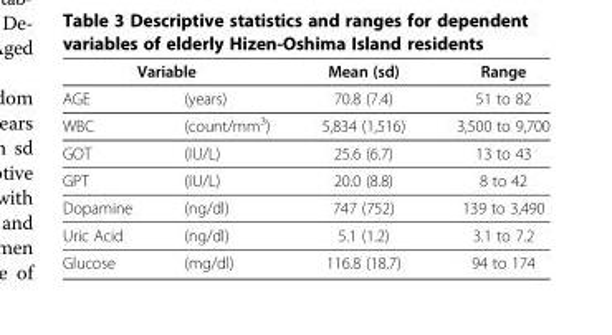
<table><thead><tr><td colspan="2">Variable</td><td rowspan="2">Mean (sd) 70.8 (7.4)</td><td rowspan="2">Range 51 to 82</td></tr><tr><td>AGE</td><td>(years)</td></tr></thead><tbody><tr><td>WBC</td><td>(count/mm<sup>3</sup>)</td><td>5,834 (1,516)</td><td>3,500 to 9,700</td></tr><tr><td>GOT</td><td>(IU/L)</td><td>25.6 (6.7)</td><td>13 to 43</td></tr><tr><td>GPT</td><td>(IU/L)</td><td>20.0 (8.8)</td><td>8 to 42</td></tr><tr><td>Dopamine</td><td>(ng/dl)</td><td>747 (752)</td><td>139 to 3,490</td></tr><tr><td>Uric Acid</td><td>(ng/dl)</td><td>5.1 (1.2)</td><td>3.1 to 7.2</td></tr><tr><td>Glucose</td><td>(mg/dl)</td><td>116.8 (18.7)</td><td>94 to 174</td></tr></tbody></table>